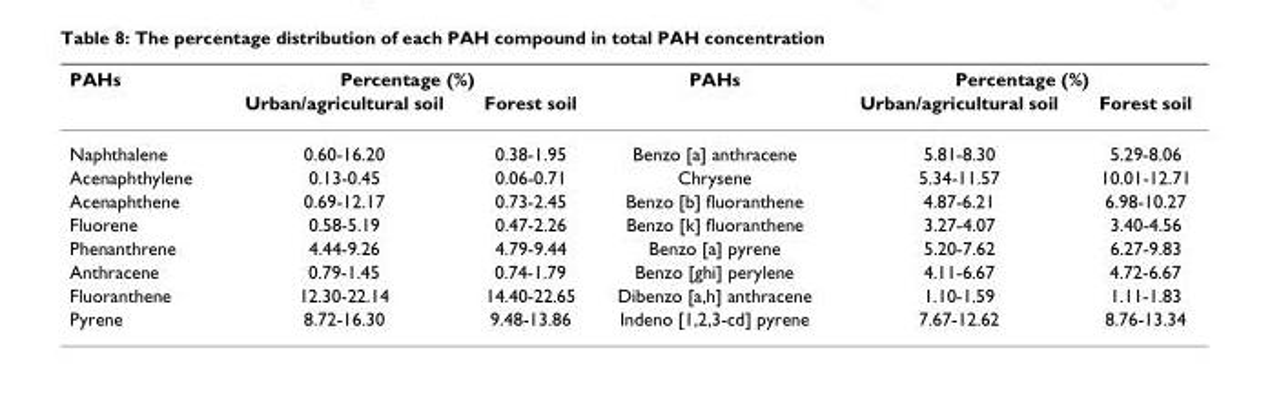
<table><thead><tr><td rowspan="2">PAHs</td><td colspan="2">Percentage (%)</td><td rowspan="2">PAHs</td><td colspan="2">Percentage (%)</td></tr><tr><td>Urban/agricultural soil</td><td>Forest soil</td><td>Urban/agricultural soil</td><td>Forest soil</td></tr></thead><tbody><tr><td>Naphthalene</td><td>0.60-16.20</td><td>0.38-1.95</td><td>Benzo [a] anthracene</td><td>5.81-8.30</td><td>5.29-8.06</td></tr><tr><td>Acenaphthylene</td><td>0.13-0.45</td><td>0.06-0.71</td><td>Chrysene</td><td>5.34-11.57</td><td>10.01-12.71</td></tr><tr><td>Acenaphthene</td><td>0.69-12.17</td><td>0.73-2.45</td><td>Benzo [b] fluoranthene</td><td>4.87-6.21</td><td>6.98-10.27</td></tr><tr><td>Fluorene</td><td>0.58-5.19</td><td>0.47-2.26</td><td>Benzo [k] fluoranthene</td><td>3.27-4.07</td><td>3.40-4.56</td></tr><tr><td>Phenanthrene</td><td>4.44-9.26</td><td>4.79-9.44</td><td>Benzo [a] pyrene</td><td>5.20-7.62</td><td>6.27-9.83</td></tr><tr><td>Anthracene</td><td>0.79-1.45</td><td>0.74-1.79</td><td>Benzo [ghi] perylene</td><td>4.11-6.67</td><td>4.72-6.67</td></tr><tr><td>Fluoranthene</td><td>12.30-22.14</td><td>14.40-22.65</td><td>Dibenzo [a,h] anthracene</td><td>1.10-1.59</td><td>1.11-1.83</td></tr><tr><td>Pyrene</td><td>8.72-16.30</td><td>9.48-13.86</td><td>Indeno [1,2,3-cd] pyrene</td><td>7.67-12.62</td><td>8.76-13.34</td></tr></tbody></table>